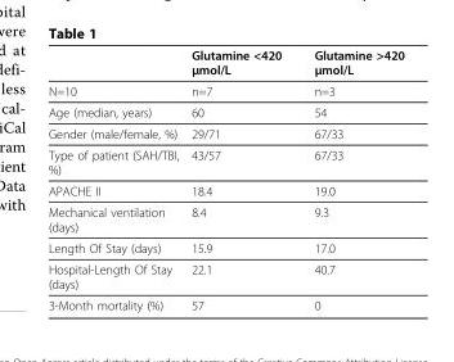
<table><thead><tr><td></td><td>Glutamine &lt;420 µmol/L</td><td>Glutamine &gt;420 µmol/L</td></tr></thead><tbody><tr><td>N=10</td><td>n=7</td><td>n=3</td></tr><tr><td>Age (median, years)</td><td>60</td><td>54</td></tr><tr><td>Gender (male/female, %)</td><td>29/71</td><td>67/33</td></tr><tr><td>Type of patient (SAH/TBI, %)</td><td>43/57</td><td>67/33</td></tr><tr><td>APACHE II</td><td>18.4</td><td>19.0</td></tr><tr><td>Mechanical ventilation (days)</td><td>8.4</td><td>9.3</td></tr><tr><td>Length Of Stay (days)</td><td>15.9</td><td>17.0</td></tr><tr><td>Hospital-Length Of Stay (days)</td><td>22.1</td><td>40.7</td></tr><tr><td>3-Month mortality (%)</td><td>57</td><td>0</td></tr></tbody></table>